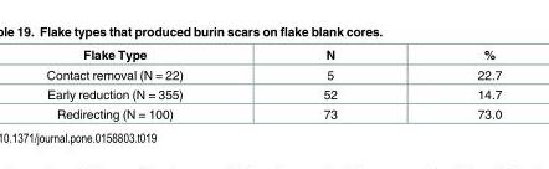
<table><thead><tr><td>Flake Type</td><td>N</td><td>%</td></tr></thead><tbody><tr><td>Contact removal (N = 22)</td><td>5</td><td>22.7</td></tr><tr><td>Early reduction (N = 355)</td><td>52</td><td>14.7</td></tr><tr><td>Redirecting (N = 100)</td><td>73</td><td>73.0</td></tr></tbody></table>